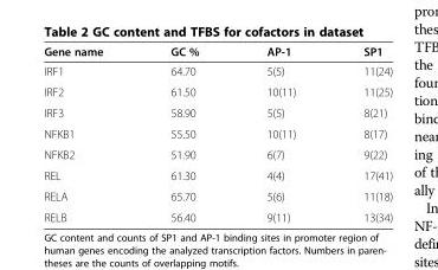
<table><thead><tr><td>Gene name</td><td>GC %</td><td>AP-1</td><td>SP1</td></tr></thead><tbody><tr><td>IRF1</td><td>64.70</td><td>5(5)</td><td>11(24)</td></tr><tr><td>IRF2</td><td>61.50</td><td>10(11)</td><td>11(25)</td></tr><tr><td>IRF3</td><td>58.90</td><td>5(5)</td><td>8(21)</td></tr><tr><td>NFKB1</td><td>55.50</td><td>10(11)</td><td>8(17)</td></tr><tr><td>NFKB2</td><td>51.90</td><td>6(7)</td><td>9(22)</td></tr><tr><td>REL</td><td>61.30</td><td>4(4)</td><td>17(41)</td></tr><tr><td>RELA</td><td>65.70</td><td>5(6)</td><td>11(18)</td></tr><tr><td>RELB</td><td>56.40</td><td>9(11)</td><td>13(34)</td></tr></tbody></table>